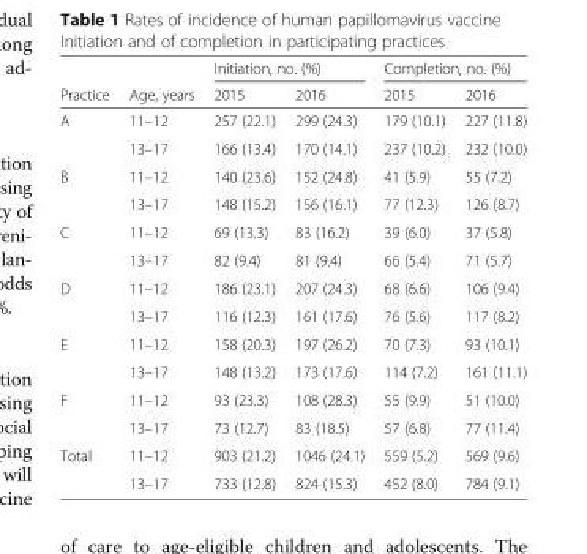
<table><thead><tr><td rowspan="2">Practice</td><td rowspan="2">Age, years</td><td colspan="2">Initiation, no. (%)</td><td colspan="2">Completion, no. (%)</td></tr><tr><td>2015</td><td>2016</td><td>2015</td><td>2016</td></tr></thead><tbody><tr><td rowspan="2">A</td><td>11–12</td><td>257 (22.1)</td><td>299 (24.3)</td><td>179 (10.1)</td><td>227 (11.8)</td></tr><tr><td>13–17</td><td>166 (13.4)</td><td>170 (14.1)</td><td>237 (10.2)</td><td>232 (10.0)</td></tr><tr><td rowspan="2">B</td><td>11–12</td><td>140 (23.6)</td><td>152 (24.8)</td><td>41 (5.9)</td><td>55 (7.2)</td></tr><tr><td>13–17</td><td>148 (15.2)</td><td>156 (16.1)</td><td>77 (12.3)</td><td>126 (8.7)</td></tr><tr><td rowspan="2">C</td><td>11–12</td><td>69 (13.3)</td><td>83 (16.2)</td><td>39 (6.0)</td><td>37 (5.8)</td></tr><tr><td>13–17</td><td>82 (9.4)</td><td>81 (9.4)</td><td>66 (5.4)</td><td>71 (5.7)</td></tr><tr><td rowspan="2">D</td><td>11–12</td><td>186 (23.1)</td><td>207 (24.3)</td><td>68 (6.6)</td><td>106 (9.4)</td></tr><tr><td>13–17</td><td>116 (12.3)</td><td>161 (17.6)</td><td>76 (5.6)</td><td>117 (8.2)</td></tr><tr><td rowspan="2">E</td><td>11–12</td><td>158 (20.3)</td><td>197 (26.2)</td><td>70 (7.3)</td><td>93 (10.1)</td></tr><tr><td>13–17</td><td>148 (13.2)</td><td>173 (17.6)</td><td>114 (7.2)</td><td>161 (11.1)</td></tr><tr><td rowspan="2">F</td><td>11–12</td><td>93 (23.3)</td><td>108 (28.3)</td><td>55 (9.9)</td><td>51 (10.0)</td></tr><tr><td>13–17</td><td>73 (12.7)</td><td>83 (18.5)</td><td>57 (6.8)</td><td>77 (11.4)</td></tr><tr><td rowspan="2">Total</td><td>11–12</td><td>903 (21.2)</td><td>1046 (24.1)</td><td>559 (5.2)</td><td>569 (9.6)</td></tr><tr><td>13–17</td><td>733 (12.8)</td><td>824 (15.3)</td><td>452 (8.0)</td><td>784 (9.1)</td></tr></tbody></table>